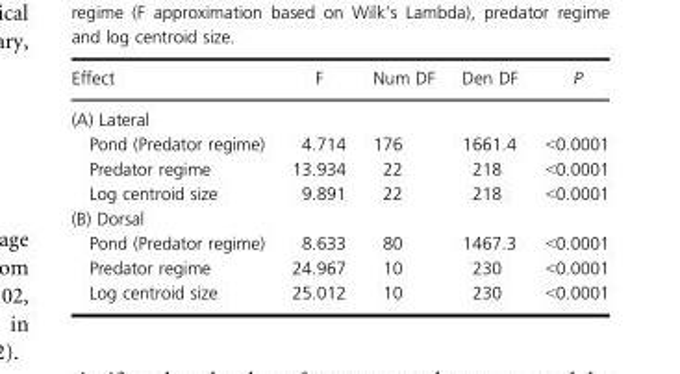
<table><thead><tr><td>Effect</td><td>F</td><td>Num DF</td><td>Den DF</td><td>P</td></tr></thead><tbody><tr><td colspan="5">(A) Lateral</td></tr><tr><td>Pond (Predator regime)</td><td>4.714</td><td>176</td><td>1661.4</td><td>&lt;0.0001</td></tr><tr><td>Predator regime</td><td>13.934</td><td>22</td><td>218</td><td>&lt;0.0001</td></tr><tr><td>Log centroid size</td><td>9.891</td><td>22</td><td>218</td><td>&lt;0.0001</td></tr><tr><td colspan="5">(B) Dorsal</td></tr><tr><td>Pond (Predator regime)</td><td>8.633</td><td>80</td><td>1467.3</td><td>&lt;0.0001</td></tr><tr><td>Predator regime</td><td>24.967</td><td>10</td><td>230</td><td>&lt;0.0001</td></tr><tr><td>Log centroid size</td><td>25.012</td><td>10</td><td>230</td><td>&lt;0.0001</td></tr></tbody></table>